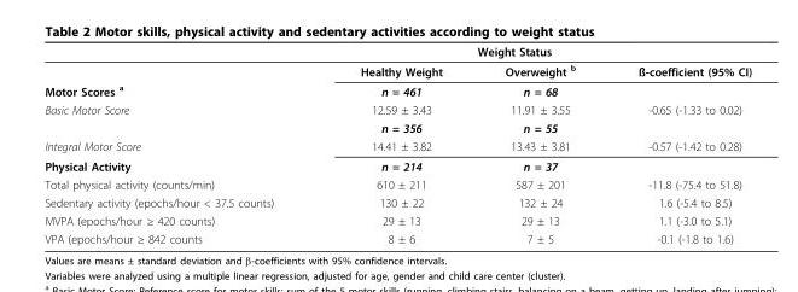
<table><thead><tr><td></td><td></td><td>Weight Status</td><td></td></tr></thead><tbody><tr><td></td><td>Healthy Weight</td><td>Overweight <sup>b</sup></td><td>ß-coefficient (95% CI)</td></tr><tr><td>Motor Scores <sup>a</sup></td><td>n = 461</td><td>n = 68</td><td></td></tr><tr><td rowspan="2">Basic Motor Score</td><td>12.59 ± 3.43</td><td>11.91 ± 3.55</td><td>-0.65 (-1.33 to 0.02)</td></tr><tr><td>n = 356</td><td>n = 55</td><td></td></tr><tr><td>Integral Motor Score</td><td>14.41 ± 3.82</td><td>13.43 ± 3.81</td><td>-0.57 (-1.42 to 0.28)</td></tr><tr><td>Physical Activity</td><td>n = 214</td><td>n = 37</td><td></td></tr><tr><td>Total physical activity (counts/min)</td><td>610 ± 211</td><td>587 ± 201</td><td>-11.8 (-75.4 to 51.8)</td></tr><tr><td>Sedentary activity (epochs/hour &lt; 37.5 counts)</td><td>130 ± 22</td><td>132 ± 24</td><td>1.6 (-5.4 to 8.5)</td></tr><tr><td>MVPA (epochs/hour ≥ 420 counts)</td><td>29 ± 13</td><td>29 ± 13</td><td>1.1 (-3.0 to 5.1)</td></tr><tr><td>VPA (epochs/hour ≥ 842 counts</td><td>8 ± 6</td><td>7 ± 5</td><td>-0.1 (-1.8 to 1.6)</td></tr></tbody></table>